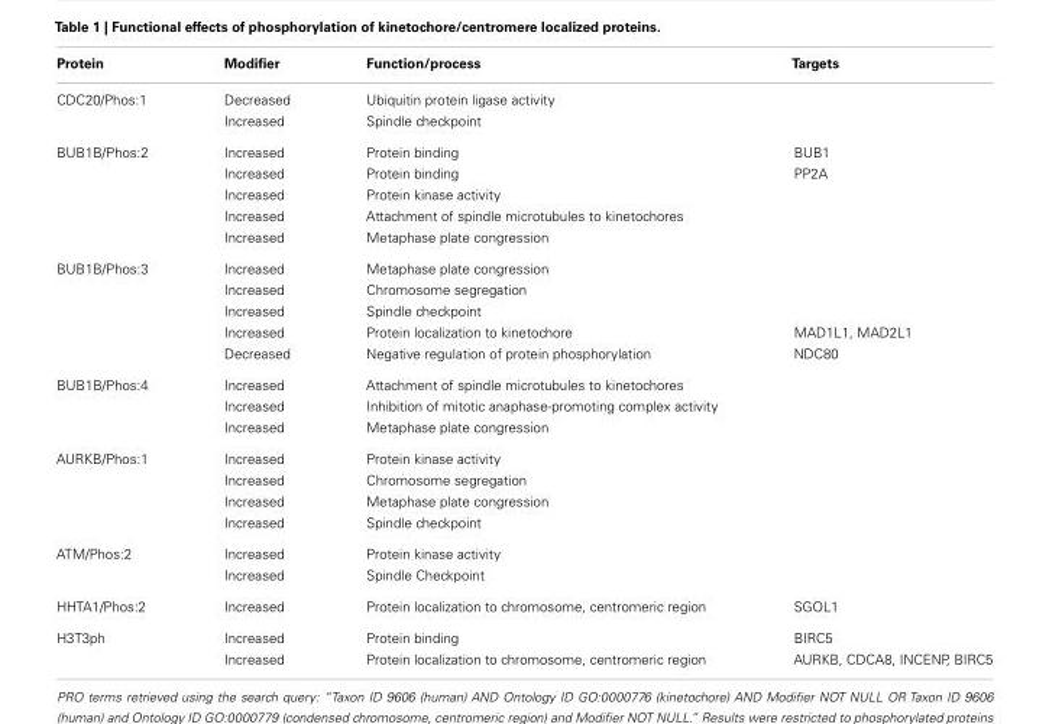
<table><thead><tr><td>Protein</td><td>Modifier</td><td>Function/process</td><td>Targets</td></tr></thead><tbody><tr><td rowspan="2">CDC20/Phos:1</td><td>Decreased</td><td>Ubiquitin protein ligase activity</td><td></td></tr><tr><td>Increased</td><td>Spindle checkpoint</td><td></td></tr><tr><td rowspan="5">BUB1B/Phos:2</td><td>Increased</td><td>Protein binding</td><td>BUB1</td></tr><tr><td>Increased</td><td>Protein binding</td><td>PP2A</td></tr><tr><td>Increased</td><td>Protein kinase activity</td><td></td></tr><tr><td>Increased</td><td>Attachment of spindle microtubules to kinetochores</td><td></td></tr><tr><td>Increased</td><td>Metaphase plate congression</td><td></td></tr><tr><td rowspan="5">BUB1B/Phos:3</td><td>Increased</td><td>Metaphase plate congression</td><td></td></tr><tr><td>Increased</td><td>Chromosome segregation</td><td></td></tr><tr><td>Increased</td><td>Spindle checkpoint</td><td></td></tr><tr><td>Increased</td><td>Protein localization to kinetochore</td><td>MAD1L1, MAD2L1</td></tr><tr><td>Decreased</td><td>Negative regulation of protein phosphorylation</td><td>NDC80</td></tr><tr><td rowspan="3">BUB1B/Phos:4</td><td>Increased</td><td>Attachment of spindle microtubules to kinetochores</td><td></td></tr><tr><td>Increased</td><td>Inhibition of mitotic anaphase-promoting complex activity</td><td></td></tr><tr><td>Increased</td><td>Metaphase plate congression</td><td></td></tr><tr><td rowspan="4">AURKB/Phos:1</td><td>Increased</td><td>Protein kinase activity</td><td></td></tr><tr><td>Increased</td><td>Chromosome segregation</td><td></td></tr><tr><td>Increased</td><td>Metaphase plate congression</td><td></td></tr><tr><td>Increased</td><td>Spindle checkpoint</td><td></td></tr><tr><td rowspan="2">ATM/Phos:2</td><td>Increased</td><td>Protein kinase activity</td><td></td></tr><tr><td>Increased</td><td>Spindle Checkpoint</td><td></td></tr><tr><td>HHTA1/Phos:2</td><td>Increased</td><td>Protein localization to chromosome, centromeric region</td><td>SGOL1</td></tr><tr><td rowspan="2">H3T3ph</td><td>Increased</td><td>Protein binding</td><td>BIRC5</td></tr><tr><td>Increased</td><td>Protein localization to chromosome, centromeric region</td><td>AURKB, CDCA8, INCENP, BIRC5</td></tr></tbody></table>